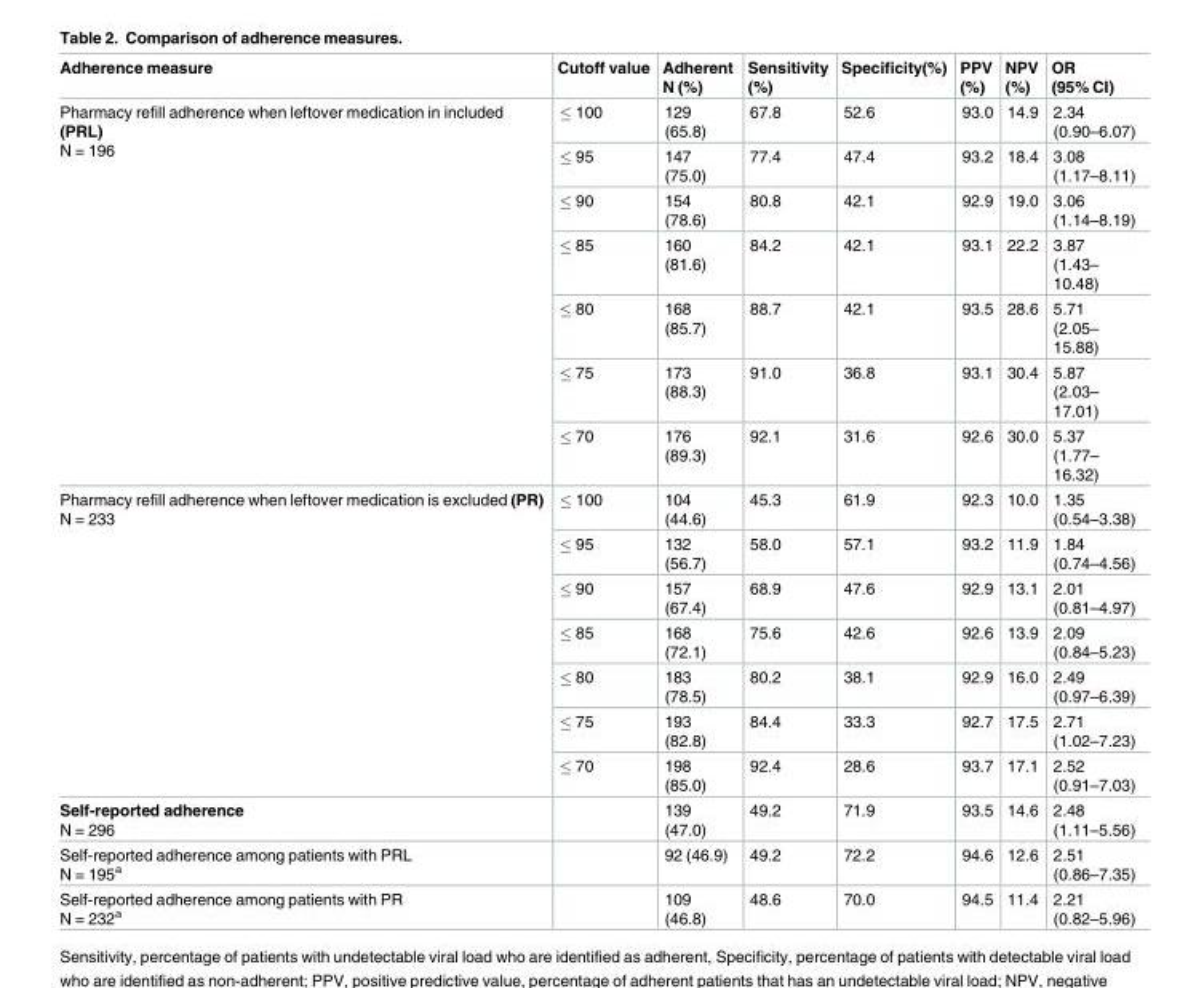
<table><thead><tr><td>Adherence measure</td><td>Cutoff value</td><td>Adherent N (%)</td><td>Sensitivity (%)</td><td>Specificity(%)</td><td>PPV (%)</td><td>NPV (%)</td><td>OR (95% CI)</td></tr></thead><tbody><tr><td rowspan="7">Pharmacy refill adherence when leftover medication in included (PRL) N = 196</td><td>≤ 100</td><td>129 (65.8)</td><td>67.8</td><td>52.6</td><td>93.0</td><td>14.9</td><td>2.34 (0.90–6.07)</td></tr><tr><td>≤ 95</td><td>147 (75.0)</td><td>77.4</td><td>47.4</td><td>93.2</td><td>18.4</td><td>3.08 (1.17–8.11)</td></tr><tr><td>≤ 90</td><td>154 (78.6)</td><td>80.8</td><td>42.1</td><td>92.9</td><td>19.0</td><td>3.06 (1.14–8.19)</td></tr><tr><td>≤ 85</td><td>160 (81.6)</td><td>84.2</td><td>42.1</td><td>93.1</td><td>22.2</td><td>3.87 (1.43– 10.48)</td></tr><tr><td>≤ 80</td><td>168 (85.7)</td><td>88.7</td><td>42.1</td><td>93.5</td><td>28.6</td><td>5.71 (2.05– 15.88)</td></tr><tr><td>≤ 75</td><td>173 (88.3)</td><td>91.0</td><td>36.8</td><td>93.1</td><td>30.4</td><td>5.87 (2.03– 17.01)</td></tr><tr><td>≤ 70</td><td>176 (89.3)</td><td>92.1</td><td>31.6</td><td>92.6</td><td>30.0</td><td>5.37 (1.77– 16.32)</td></tr><tr><td rowspan="7">Pharmacy refill adherence when leftover medication is excluded (PR) N = 233</td><td>≤ 100</td><td>104 (44.6)</td><td>45.3</td><td>61.9</td><td>92.3</td><td>10.0</td><td>1.35 (0.54–3.38)</td></tr><tr><td>≤ 95</td><td>132 (56.7)</td><td>58.0</td><td>57.1</td><td>93.2</td><td>11.9</td><td>1.84 (0.74–4.56)</td></tr><tr><td>≤ 90</td><td>157 (67.4)</td><td>68.9</td><td>47.6</td><td>92.9</td><td>13.1</td><td>2.01 (0.81–4.97)</td></tr><tr><td>≤ 85</td><td>168 (72.1)</td><td>75.6</td><td>42.6</td><td>92.6</td><td>13.9</td><td>2.09 (0.84–5.23)</td></tr><tr><td>≤ 80</td><td>183 (78.5)</td><td>80.2</td><td>38.1</td><td>92.9</td><td>16.0</td><td>2.49 (0.97–6.39)</td></tr><tr><td>≤ 75</td><td>193 (82.8)</td><td>84.4</td><td>33.3</td><td>92.7</td><td>17.5</td><td>2.71 (1.02–7.23)</td></tr><tr><td>≤ 70</td><td>198 (85.0)</td><td>92.4</td><td>28.6</td><td>93.7</td><td>17.1</td><td>2.52 (0.91–7.03)</td></tr><tr><td>Self-reported adherence N = 296</td><td></td><td>139 (47.0)</td><td>49.2</td><td>71.9</td><td>93.5</td><td>14.6</td><td>2.48 (1.11–5.56)</td></tr><tr><td>Self-reported adherence among patients with PRL N = 195<sup>a</sup></td><td></td><td>92 (46.9)</td><td>49.2</td><td>72.2</td><td>94.6</td><td>12.6</td><td>2.51 (0.86–7.35)</td></tr><tr><td>Self-reported adherence among patients with PR N = 232<sup>a</sup></td><td></td><td>109 (46.8)</td><td>48.6</td><td>70.0</td><td>94.5</td><td>11.4</td><td>2.21 (0.82–5.96)</td></tr></tbody></table>